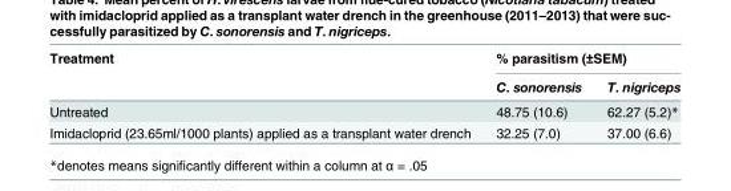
<table><thead><tr><td rowspan="2">Treatment</td><td colspan="2">% parasitism (±SEM)</td></tr><tr><td>C. sonorensis</td><td>T. nigriceps</td></tr></thead><tbody><tr><td>Untreated</td><td>48.75 (10.6)</td><td>62.27 (5.2)*</td></tr><tr><td>Imidacloprid (23.65ml/1000 plants) applied as a transplant water drench</td><td>32.25 (7.0)</td><td>37.00 (6.6)</td></tr></tbody></table>